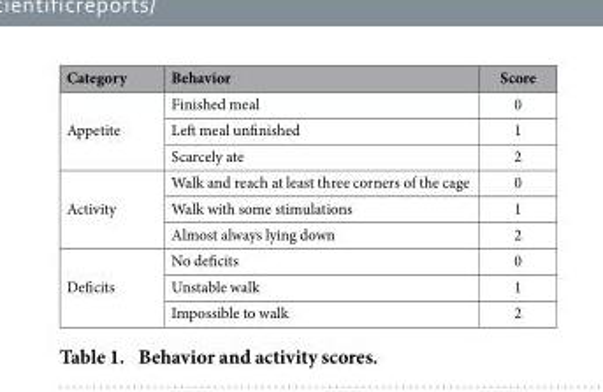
<table><thead><tr><td>Category</td><td>Behavior</td><td>Score</td></tr></thead><tbody><tr><td rowspan="3">Appetite</td><td>Finished meal</td><td>0</td></tr><tr><td>Left meal unfinished</td><td>1</td></tr><tr><td>Scarcely ate</td><td>2</td></tr><tr><td rowspan="3">Activity</td><td>Walk and reach at least three corners of the cage</td><td>0</td></tr><tr><td>Walk with some stimulations</td><td>1</td></tr><tr><td>Almost always lying down</td><td>2</td></tr><tr><td rowspan="3">Deficits</td><td>No deficits</td><td>0</td></tr><tr><td>Unstable walk</td><td>1</td></tr><tr><td>Impossible to walk</td><td>2</td></tr></tbody></table>